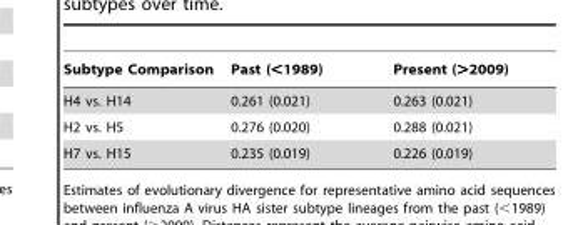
<table><thead><tr><td>Subtype Comparison</td><td>Past (&lt;1989)</td><td>Present (&gt;2009)</td></tr></thead><tbody><tr><td>H4 vs. H14</td><td>0.261 (0.021)</td><td>0.263 (0.021)</td></tr><tr><td>H2 vs. H5</td><td>0.276 (0.020)</td><td>0.288 (0.021)</td></tr><tr><td>H7 vs. H15</td><td>0.235 (0.019)</td><td>0.226 (0.019)</td></tr></tbody></table>